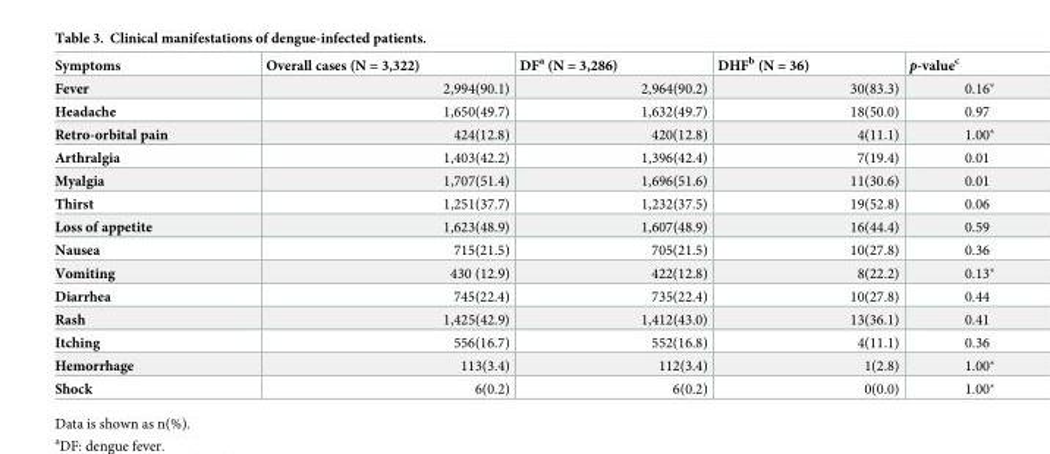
<table><thead><tr><td>Symptoms</td><td>Overall cases (N = 3,322)</td><td>DF<sup>a</sup> (N = 3,286)</td><td>DHF<sup>b</sup> (N = 36)</td><td>p-value<sup>c</sup></td></tr></thead><tbody><tr><td>Fever</td><td>2,994(90.1)</td><td>2,964(90.2)</td><td>30(83.3)</td><td>0.16*</td></tr><tr><td>Headache</td><td>1,650(49.7)</td><td>1,632(49.7)</td><td>18(50.0)</td><td>0.97</td></tr><tr><td>Retro-orbital pain</td><td>424(12.8)</td><td>420(12.8)</td><td>4(11.1)</td><td>1.00*</td></tr><tr><td>Arthralgia</td><td>1,403(42.2)</td><td>1,396(42.4)</td><td>7(19.4)</td><td>0.01</td></tr><tr><td>Myalgia</td><td>1,707(51.4)</td><td>1,696(51.6)</td><td>11(30.6)</td><td>0.01</td></tr><tr><td>Thirst</td><td>1,251(37.7)</td><td>1,232(37.5)</td><td>19(52.8)</td><td>0.06</td></tr><tr><td>Loss of appetite</td><td>1,623(48.9)</td><td>1,607(48.9)</td><td>16(44.4)</td><td>0.59</td></tr><tr><td>Nausea</td><td>715(21.5)</td><td>705(21.5)</td><td>10(27.8)</td><td>0.36</td></tr><tr><td>Vomiting</td><td>430 (12.9)</td><td>422(12.8)</td><td>8(22.2)</td><td>0.13*</td></tr><tr><td>Diarrhea</td><td>745(22.4)</td><td>735(22.4)</td><td>10(27.8)</td><td>0.44</td></tr><tr><td>Rash</td><td>1,425(42.9)</td><td>1,412(43.0)</td><td>13(36.1)</td><td>0.41</td></tr><tr><td>Itching</td><td>556(16.7)</td><td>552(16.8)</td><td>4(11.1)</td><td>0.36</td></tr><tr><td>Hemorrhage</td><td>113(3.4)</td><td>112(3.4)</td><td>1(2.8)</td><td>1.00*</td></tr><tr><td>Shock</td><td>6(0.2)</td><td>6(0.2)</td><td>0(0.0)</td><td>1.00*</td></tr></tbody></table>